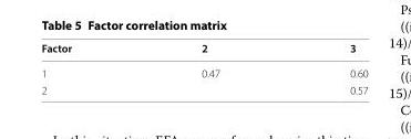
<table><thead><tr><td>Factor</td><td>2</td><td>3</td></tr></thead><tbody><tr><td>1</td><td>0.47</td><td>0.60</td></tr><tr><td>2</td><td></td><td>0.57</td></tr></tbody></table>